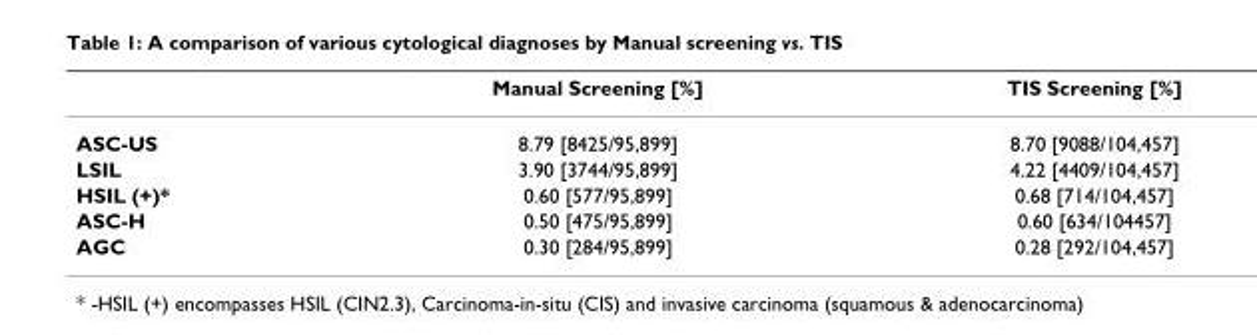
<table><thead><tr><td></td><td>Manual Screening [%]</td><td>TIS Screening [%]</td></tr></thead><tbody><tr><td>ASC-US</td><td>8.79 [8425/95,899]</td><td>8.70 [9088/104,457]</td></tr><tr><td>LSIL</td><td>3.90 [3744/95,899]</td><td>4.22 [4409/104,457]</td></tr><tr><td>HSIL (+)*</td><td>0.60 [577/95,899]</td><td>0.68 [714/104,457]</td></tr><tr><td>ASC-H</td><td>0.50 [475/95,899]</td><td>0.60 [634/104457]</td></tr><tr><td>AGC</td><td>0.30 [284/95,899]</td><td>0.28 [292/104,457]</td></tr></tbody></table>